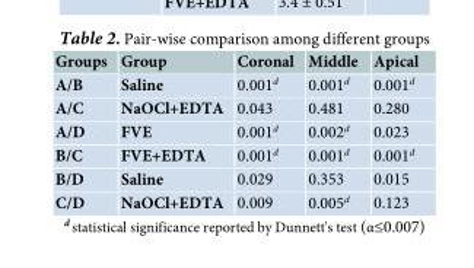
<table><thead><tr><td>Groups</td><td>Group</td><td>Coronal</td><td>Middle</td><td>Apical</td></tr></thead><tbody><tr><td>A/B</td><td>Saline</td><td>0.001<sup>d</sup></td><td>0.001<sup>d</sup></td><td>0.001<sup>d</sup></td></tr><tr><td>A/C</td><td>NaOCl+EDTA</td><td>0.043</td><td>0.481</td><td>0.280</td></tr><tr><td>A/D</td><td>FVE</td><td>0.001<sup>d</sup></td><td>0.002<sup>d</sup></td><td>0.023</td></tr><tr><td>B/C</td><td>FVE+EDTA</td><td>0.001<sup>d</sup></td><td>0.001<sup>d</sup></td><td>0.001<sup>d</sup></td></tr><tr><td>B/D</td><td>Saline</td><td>0.029</td><td>0.353</td><td>0.015</td></tr><tr><td>C/D</td><td>NaOCl+EDTA</td><td>0.009</td><td>0.005<sup>d</sup></td><td>0.123</td></tr></tbody></table>